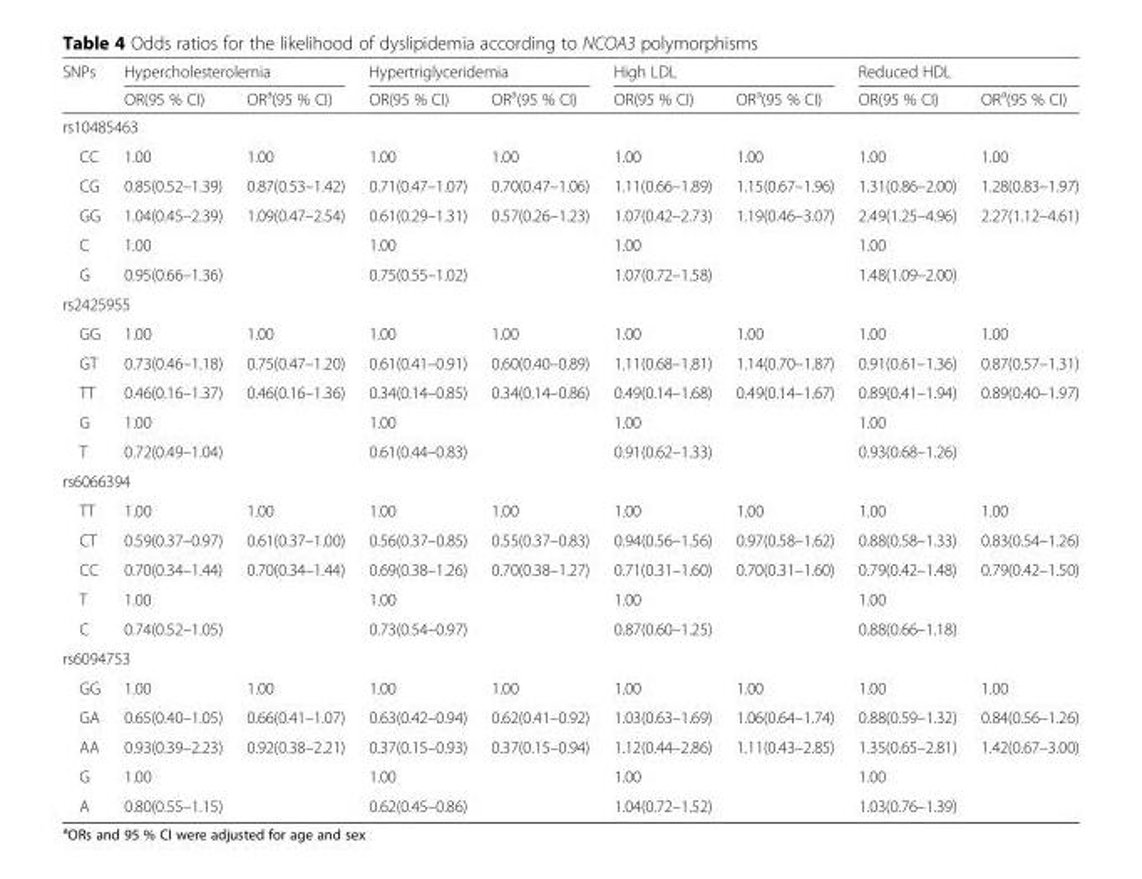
<table><thead><tr><td rowspan="2">SNPs</td><td colspan="2">Hypercholesterolemia</td><td colspan="2">Hypertriglyceridemia</td><td colspan="2">High LDL</td><td colspan="2">Reduced HDL</td></tr><tr><td>OR(95 % CI)</td><td>OR<sup>a</sup>(95 % CI)</td><td>OR(95 % CI)</td><td>OR<sup>a</sup>(95 % CI)</td><td>OR(95 % CI)</td><td>OR<sup>a</sup>(95 % CI)</td><td>OR(95 % CI)</td><td>OR<sup>a</sup>(95 % CI)</td></tr></thead><tbody><tr><td colspan="9">rs10485463</td></tr><tr><td>CC</td><td>1.00</td><td>1.00</td><td>1.00</td><td>1.00</td><td>1.00</td><td>1.00</td><td>1.00</td><td>1.00</td></tr><tr><td>CG</td><td>0.85(0.52–1.39)</td><td>0.87(0.53–1.42)</td><td>0.71(0.47–1.07)</td><td>0.70(0.47–1.06)</td><td>1.11(0.66–1.89)</td><td>1.15(0.67–1.96)</td><td>1.31(0.86–2.00)</td><td>1.28(0.83–1.97)</td></tr><tr><td>GG</td><td>1.04(0.45–2.39)</td><td>1.09(0.47–2.54)</td><td>0.61(0.29–1.31)</td><td>0.57(0.26–1.23)</td><td>1.07(0.42–2.73)</td><td>1.19(0.46–3.07)</td><td>2.49(1.25–4.96)</td><td>2.27(1.12–4.61)</td></tr><tr><td>C</td><td>1.00</td><td></td><td>1.00</td><td></td><td>1.00</td><td></td><td>1.00</td><td></td></tr><tr><td>G</td><td>0.95(0.66–1.36)</td><td></td><td>0.75(0.55–1.02)</td><td></td><td>1.07(0.72–1.58)</td><td></td><td>1.48(1.09–2.00)</td><td></td></tr><tr><td colspan="9">rs2425955</td></tr><tr><td>GG</td><td>1.00</td><td>1.00</td><td>1.00</td><td>1.00</td><td>1.00</td><td>1.00</td><td>1.00</td><td>1.00</td></tr><tr><td>GT</td><td>0.73(0.46–1.18)</td><td>0.75(0.47–1.20)</td><td>0.61(0.41–0.91)</td><td>0.60(0.40–0.89)</td><td>1.11(0.68–1.81)</td><td>1.14(0.70–1.87)</td><td>0.91(0.61–1.36)</td><td>0.87(0.57–1.31)</td></tr><tr><td>TT</td><td>0.46(0.16–1.37)</td><td>0.46(0.16–1.36)</td><td>0.34(0.14–0.85)</td><td>0.34(0.14–0.86)</td><td>0.49(0.14–1.68)</td><td>0.49(0.14–1.67)</td><td>0.89(0.41–1.94)</td><td>0.89(0.40–1.97)</td></tr><tr><td>G</td><td>1.00</td><td></td><td>1.00</td><td></td><td>1.00</td><td></td><td>1.00</td><td></td></tr><tr><td>T</td><td>0.72(0.49–1.04)</td><td></td><td>0.61(0.44–0.83)</td><td></td><td>0.91(0.62–1.33)</td><td></td><td>0.93(0.68–1.26)</td><td></td></tr><tr><td colspan="9">rs6066394</td></tr><tr><td>TT</td><td>1.00</td><td>1.00</td><td>1.00</td><td>1.00</td><td>1.00</td><td>1.00</td><td>1.00</td><td>1.00</td></tr><tr><td>CT</td><td>0.59(0.37–0.97)</td><td>0.61(0.37–1.00)</td><td>0.56(0.37–0.85)</td><td>0.55(0.37–0.83)</td><td>0.94(0.56–1.56)</td><td>0.97(0.58–1.62)</td><td>0.88(0.58–1.33)</td><td>0.83(0.54–1.26)</td></tr><tr><td>CC</td><td>0.70(0.34–1.44)</td><td>0.70(0.34–1.44)</td><td>0.69(0.38–1.26)</td><td>0.70(0.38–1.27)</td><td>0.71(0.31–1.60)</td><td>0.70(0.31–1.60)</td><td>0.79(0.42–1.48)</td><td>0.79(0.42–1.50)</td></tr><tr><td>T</td><td>1.00</td><td></td><td>1.00</td><td></td><td>1.00</td><td></td><td>1.00</td><td></td></tr><tr><td>C</td><td>0.74(0.52–1.05)</td><td></td><td>0.73(0.54–0.97)</td><td></td><td>0.87(0.60–1.25)</td><td></td><td>0.88(0.66–1.18)</td><td></td></tr><tr><td colspan="9">rs6094753</td></tr><tr><td>GG</td><td>1.00</td><td>1.00</td><td>1.00</td><td>1.00</td><td>1.00</td><td>1.00</td><td>1.00</td><td>1.00</td></tr><tr><td>GA</td><td>0.65(0.40–1.05)</td><td>0.66(0.41–1.07)</td><td>0.63(0.42–0.94)</td><td>0.62(0.41–0.92)</td><td>1.03(0.63–1.69)</td><td>1.06(0.64–1.74)</td><td>0.88(0.59–1.32)</td><td>0.84(0.56–1.26)</td></tr><tr><td>AA</td><td>0.93(0.39–2.23)</td><td>0.92(0.38–2.21)</td><td>0.37(0.15–0.93)</td><td>0.37(0.15–0.94)</td><td>1.12(0.44–2.86)</td><td>1.11(0.43–2.85)</td><td>1.35(0.65–2.81)</td><td>1.42(0.67–3.00)</td></tr><tr><td>G</td><td>1.00</td><td></td><td>1.00</td><td></td><td>1.00</td><td></td><td>1.00</td><td></td></tr><tr><td>A</td><td>0.80(0.55–1.15)</td><td></td><td>0.62(0.45–0.86)</td><td></td><td>1.04(0.72–1.52)</td><td></td><td>1.03(0.76–1.39)</td><td></td></tr></tbody></table>